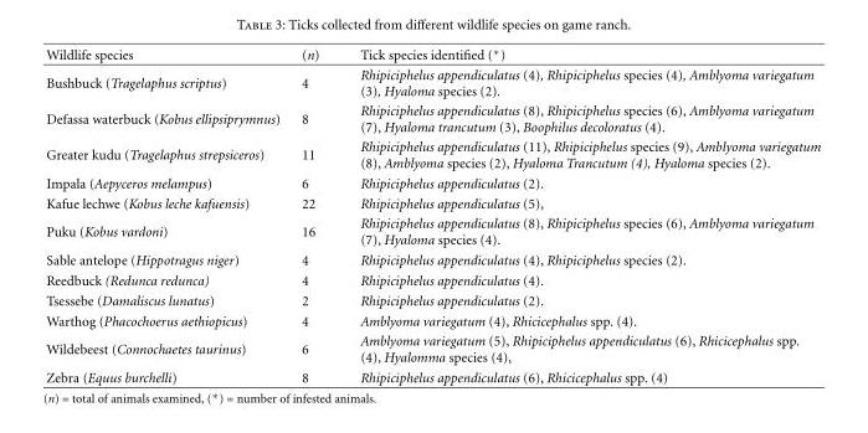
<table><thead><tr><td>Wildlife species</td><td>(n)</td><td>Tick species identified (∗)</td></tr></thead><tbody><tr><td>Bushbuck (Tragelaphus scriptus)</td><td>4</td><td>Rhipiciphelus appendiculatus (4), Rhipiciphelus species (4), Amblyoma variegatum (3), Hyaloma species (2).</td></tr><tr><td>Defassa waterbuck (Kobus ellipsiprymnus)</td><td>8</td><td>Rhipiciphelus appendiculatus (8), Rhipiciphelus species (6), Amblyoma variegatum (7), Hyaloma trancutum (3), Boophilus decoloratus (4).</td></tr><tr><td>Greater kudu (Tragelaphus strepsiceros)</td><td>11</td><td>Rhipiciphelus appendiculatus (11), Rhipiciphelus species (9), Amblyoma variegatum (8), Amblyoma species (2), Hyaloma Trancutum (4), Hyaloma species (2).</td></tr><tr><td>Impala (Aepyceros melampus)</td><td>6</td><td>Rhipiciphelus appendiculatus (2).</td></tr><tr><td>Kafue lechwe (Kobus leche kafuensis)</td><td>22</td><td>Rhipiciphelus appendiculatus (5),</td></tr><tr><td>Puku (Kobus vardoni)</td><td>16</td><td>Rhipiciphelus appendiculatus (8), Rhipiciphelus species (6), Amblyoma variegatum (7), Hyaloma species (4).</td></tr><tr><td>Sable antelope (Hippotragus niger)</td><td>4</td><td>Rhipiciphelus appendiculatus (4), Rhipiciphelus species (2).</td></tr><tr><td>Reedbuck (Redunca redunca)</td><td>4</td><td>Rhipiciphelus appendiculatus (4).</td></tr><tr><td>Tsessebe (Damaliscus lunatus)</td><td>2</td><td>Rhipiciphelus appendiculatus (2).</td></tr><tr><td>Warthog (Phacochoerus aethiopicus)</td><td>4</td><td>Amblyoma variegatum (4), Rhicicephalus spp. (4).</td></tr><tr><td>Wildebeest (Connochaetes taurinus)</td><td>6</td><td>Amblyoma variegatum (5), Rhipiciphelus appendiculatus (6), Rhicicephalus spp. (4), Hyalomma species (4),</td></tr><tr><td>Zebra (Equus burchelli)</td><td>8</td><td>Rhipiciphelus appendiculatus (6), Rhicicephalus spp. (4)</td></tr></tbody></table>